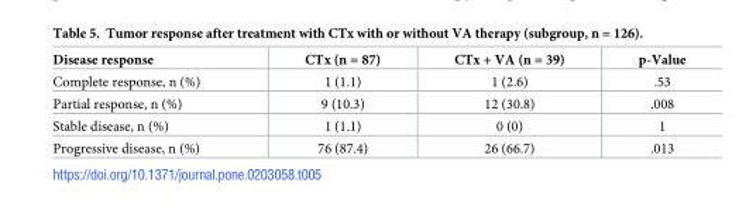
<table><thead><tr><td>Disease response</td><td>CTx (n = 87)</td><td>CTx + VA (n = 39)</td><td>p-Value</td></tr></thead><tbody><tr><td>Complete response, n (%)</td><td>1 (1.1)</td><td>1 (2.6)</td><td>.53</td></tr><tr><td>Partial response, n (%)</td><td>9 (10.3)</td><td>12 (30.8)</td><td>.008</td></tr><tr><td>Stable disease, n (%)</td><td>1 (1.1)</td><td>0 (0)</td><td>1</td></tr><tr><td>Progressive disease, n (%)</td><td>76 (87.4)</td><td>26 (66.7)</td><td>.013</td></tr></tbody></table>